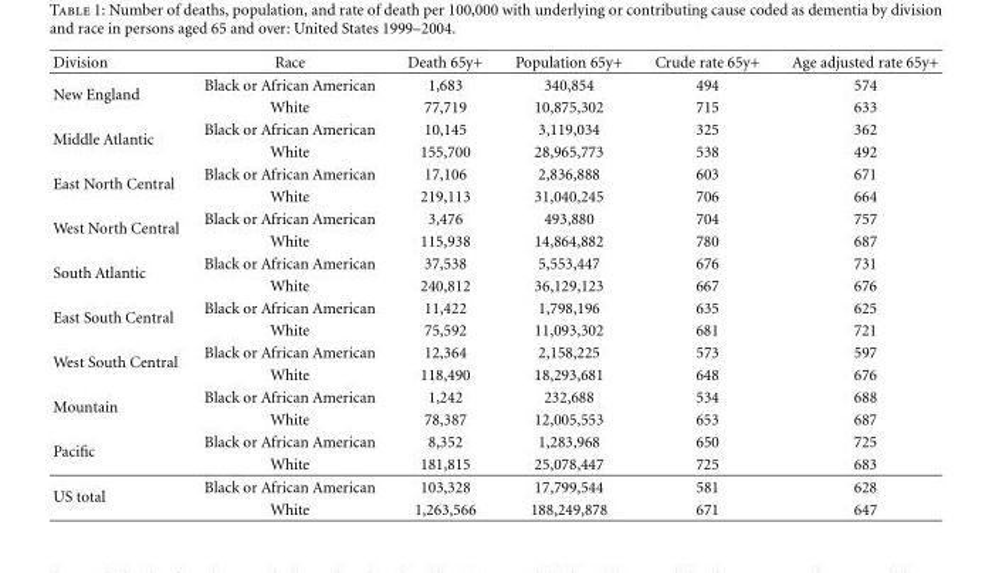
<table><thead><tr><td>Division</td><td>Race</td><td>Death 65y+</td><td>Population 65y+</td><td>Crude rate 65y+</td><td>Age adjusted rate 65y+</td></tr></thead><tbody><tr><td rowspan="2">New England</td><td>Black or African American</td><td>1,683</td><td>340,854</td><td>494</td><td>574</td></tr><tr><td>White</td><td>77,719</td><td>10,875,302</td><td>715</td><td>633</td></tr><tr><td rowspan="2">Middle Atlantic</td><td>Black or African American</td><td>10,145</td><td>3,119,034</td><td>325</td><td>362</td></tr><tr><td>White</td><td>155,700</td><td>28,965,773</td><td>538</td><td>492</td></tr><tr><td rowspan="2">East North Central</td><td>Black or African American</td><td>17,106</td><td>2,836,888</td><td>603</td><td>671</td></tr><tr><td>White</td><td>219,113</td><td>31,040,245</td><td>706</td><td>664</td></tr><tr><td rowspan="2">West North Central</td><td>Black or African American</td><td>3,476</td><td>493,880</td><td>704</td><td>757</td></tr><tr><td>White</td><td>115,938</td><td>14,864,882</td><td>780</td><td>687</td></tr><tr><td rowspan="2">South Atlantic</td><td>Black or African American</td><td>37,538</td><td>5,553,447</td><td>676</td><td>731</td></tr><tr><td>White</td><td>240,812</td><td>36,129,123</td><td>667</td><td>676</td></tr><tr><td rowspan="2">East South Central</td><td>Black or African American</td><td>11,422</td><td>1,798,196</td><td>635</td><td>625</td></tr><tr><td>White</td><td>75,592</td><td>11,093,302</td><td>681</td><td>721</td></tr><tr><td rowspan="2">West South Central</td><td>Black or African American</td><td>12,364</td><td>2,158,225</td><td>573</td><td>597</td></tr><tr><td>White</td><td>118,490</td><td>18,293,681</td><td>648</td><td>676</td></tr><tr><td rowspan="2">Mountain</td><td>Black or African American</td><td>1,242</td><td>232,688</td><td>534</td><td>688</td></tr><tr><td>White</td><td>78,387</td><td>12,005,553</td><td>653</td><td>687</td></tr><tr><td rowspan="2">Pacific</td><td>Black or African American</td><td>8,352</td><td>1,283,968</td><td>650</td><td>725</td></tr><tr><td>White</td><td>181,815</td><td>25,078,447</td><td>725</td><td>683</td></tr><tr><td rowspan="2">US total</td><td>Black or African American</td><td>103,328</td><td>17,799,544</td><td>581</td><td>628</td></tr><tr><td>White</td><td>1,263,566</td><td>188,249,878</td><td>671</td><td>647</td></tr></tbody></table>